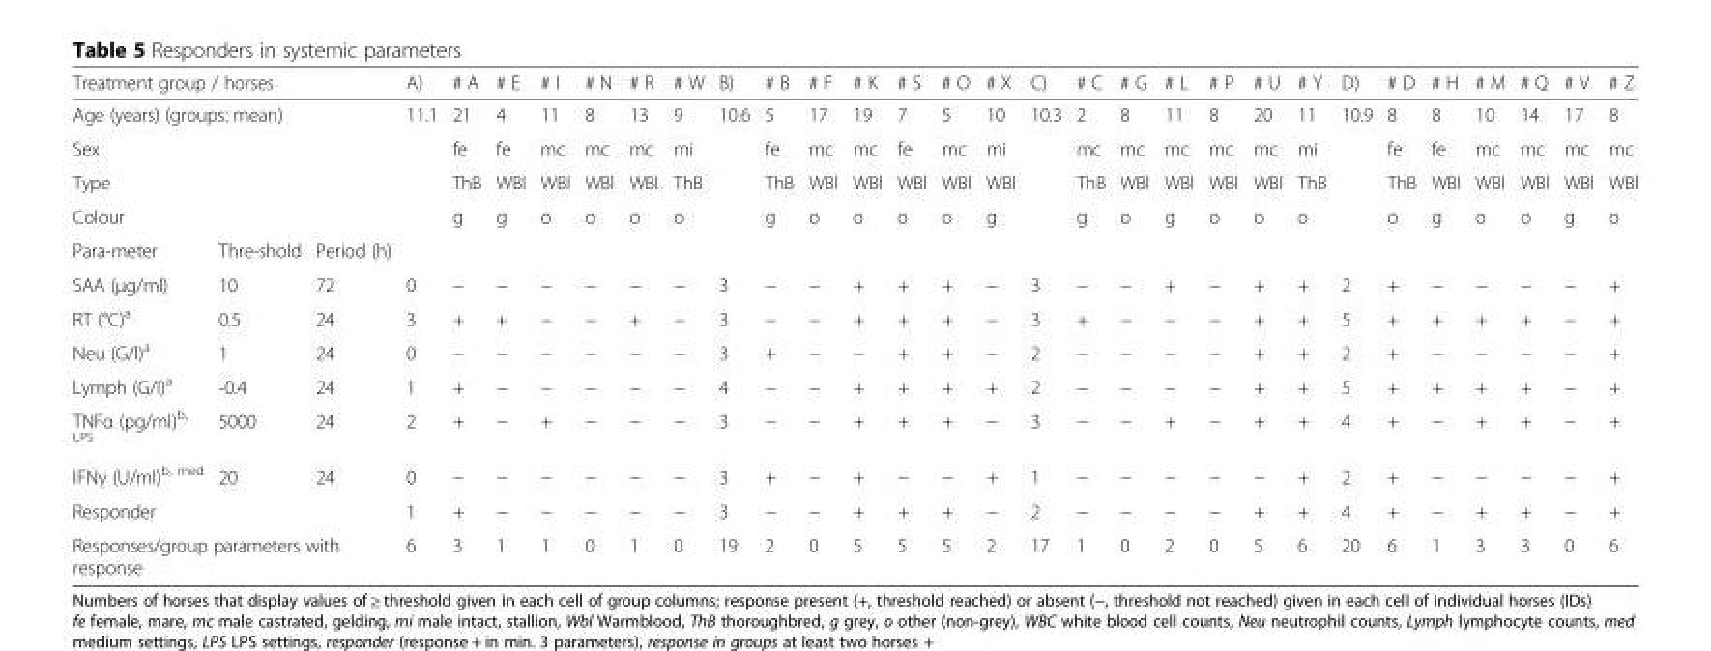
<table><thead><tr><td colspan="3">Treatment group / horses</td><td>A)</td><td># A</td><td># E</td><td># I</td><td># N</td><td># R</td><td># W</td><td>B)</td><td># B</td><td># F</td><td># K</td><td># S</td><td># O</td><td># X</td><td>C)</td><td># C</td><td># G</td><td># L</td><td># P</td><td># U</td><td># Y</td><td>D)</td><td># D</td><td># H</td><td># M</td><td># Q</td><td># V</td><td># Z</td></tr></thead><tbody><tr><td colspan="3">Age (years) (groups: mean)</td><td>11.1</td><td>21</td><td>4</td><td>11</td><td>8</td><td>13</td><td>9</td><td>10.6</td><td>5</td><td>17</td><td>19</td><td>7</td><td>5</td><td>10</td><td>10.3</td><td>2</td><td>8</td><td>11</td><td>8</td><td>20</td><td>11</td><td>10.9</td><td>8</td><td>8</td><td>10</td><td>14</td><td>17</td><td>8</td></tr><tr><td colspan="3">Sex</td><td></td><td>fe</td><td>fe</td><td>mc</td><td>mc</td><td>mc</td><td>mi</td><td></td><td>fe</td><td>mc</td><td>mc</td><td>fe</td><td>mc</td><td>mi</td><td></td><td>mc</td><td>mc</td><td>mc</td><td>mc</td><td>mc</td><td>mi</td><td></td><td>fe</td><td>fe</td><td>mc</td><td>mc</td><td>mc</td><td>mc</td></tr><tr><td colspan="3">Type</td><td></td><td>ThB</td><td>WBl</td><td>WBl</td><td>WBl</td><td>WBl</td><td>ThB</td><td></td><td>ThB</td><td>WBl</td><td>WBl</td><td>WBl</td><td>WBl</td><td>WBl</td><td></td><td>ThB</td><td>WBl</td><td>WBl</td><td>WBl</td><td>WBl</td><td>ThB</td><td></td><td>ThB</td><td>WBl</td><td>WBl</td><td>WBl</td><td>WBl</td><td>WBl</td></tr><tr><td colspan="3">Colour</td><td></td><td>g</td><td>g</td><td>o</td><td>o</td><td>o</td><td>o</td><td></td><td>g</td><td>o</td><td>o</td><td>o</td><td>o</td><td>g</td><td></td><td>g</td><td>o</td><td>g</td><td>o</td><td>o</td><td>o</td><td></td><td>o</td><td>g</td><td>o</td><td>o</td><td>g</td><td>o</td></tr><tr><td>Para-meter</td><td>Thre-shold</td><td>Period (h)</td><td></td><td></td><td></td><td></td><td></td><td></td><td></td><td></td><td></td><td></td><td></td><td></td><td></td><td></td><td></td><td></td><td></td><td></td><td></td><td></td><td></td><td></td><td></td><td></td><td></td><td></td><td></td><td></td></tr><tr><td>SAA (μg/ml)</td><td>10</td><td>72</td><td>0</td><td>−</td><td>−</td><td>−</td><td>−</td><td>−</td><td>−</td><td>3</td><td>−</td><td>−</td><td>+</td><td>+</td><td>+</td><td>−</td><td>3</td><td>−</td><td>−</td><td>+</td><td>−</td><td>+</td><td>+</td><td>2</td><td>+</td><td>−</td><td>−</td><td>−</td><td>−</td><td>+</td></tr><tr><td>RT (°C)<sup>a</sup></td><td>0.5</td><td>24</td><td>3</td><td>+</td><td>+</td><td>−</td><td>−</td><td>+</td><td>−</td><td>3</td><td>−</td><td>−</td><td>+</td><td>+</td><td>+</td><td>−</td><td>3</td><td>+</td><td>−</td><td>−</td><td>−</td><td>+</td><td>+</td><td>5</td><td>+</td><td>+</td><td>+</td><td>+</td><td>−</td><td>+</td></tr><tr><td>Neu (G/l)<sup>a</sup></td><td>1</td><td>24</td><td>0</td><td>−</td><td>−</td><td>−</td><td>−</td><td>−</td><td>−</td><td>3</td><td>+</td><td>−</td><td>−</td><td>+</td><td>+</td><td>−</td><td>2</td><td>−</td><td>−</td><td>−</td><td>−</td><td>+</td><td>+</td><td>2</td><td>+</td><td>−</td><td>−</td><td>−</td><td>−</td><td>+</td></tr><tr><td>Lymph (G/l)<sup>a</sup></td><td>-0.4</td><td>24</td><td>1</td><td>+</td><td>−</td><td>−</td><td>−</td><td>−</td><td>−</td><td>4</td><td>−</td><td>−</td><td>+</td><td>+</td><td>+</td><td>+</td><td>2</td><td>−</td><td>−</td><td>−</td><td>−</td><td>+</td><td>+</td><td>5</td><td>+</td><td>+</td><td>+</td><td>+</td><td>−</td><td>+</td></tr><tr><td>TNFα (pg/ml)<sup>b, LPS</sup></td><td>5000</td><td>24</td><td>2</td><td>+</td><td>−</td><td>+</td><td>−</td><td>−</td><td>−</td><td>3</td><td>−</td><td>−</td><td>+</td><td>+</td><td>+</td><td>−</td><td>3</td><td>−</td><td>−</td><td>+</td><td>−</td><td>+</td><td>+</td><td>4</td><td>+</td><td>−</td><td>+</td><td>+</td><td>−</td><td>+</td></tr><tr><td>IFNγ (U/ml)<sup>b, med</sup></td><td>20</td><td>24</td><td>0</td><td>−</td><td>−</td><td>−</td><td>−</td><td>−</td><td>−</td><td>3</td><td>+</td><td>−</td><td>+</td><td>−</td><td>−</td><td>+</td><td>1</td><td>−</td><td>−</td><td>−</td><td>−</td><td>−</td><td>+</td><td>2</td><td>+</td><td>−</td><td>−</td><td>−</td><td>−</td><td>+</td></tr><tr><td colspan="3">Responder</td><td>1</td><td>+</td><td>−</td><td>−</td><td>−</td><td>−</td><td>−</td><td>3</td><td>−</td><td>−</td><td>+</td><td>+</td><td>+</td><td>−</td><td>2</td><td>−</td><td>−</td><td>−</td><td>−</td><td>+</td><td>+</td><td>4</td><td>+</td><td>−</td><td>+</td><td>+</td><td>−</td><td>+</td></tr><tr><td colspan="3">Responses/group parameters with response</td><td>6</td><td>3</td><td>1</td><td>1</td><td>0</td><td>1</td><td>0</td><td>19</td><td>2</td><td>0</td><td>5</td><td>5</td><td>5</td><td>2</td><td>17</td><td>1</td><td>0</td><td>2</td><td>0</td><td>5</td><td>6</td><td>20</td><td>6</td><td>1</td><td>3</td><td>3</td><td>0</td><td>6</td></tr></tbody></table>